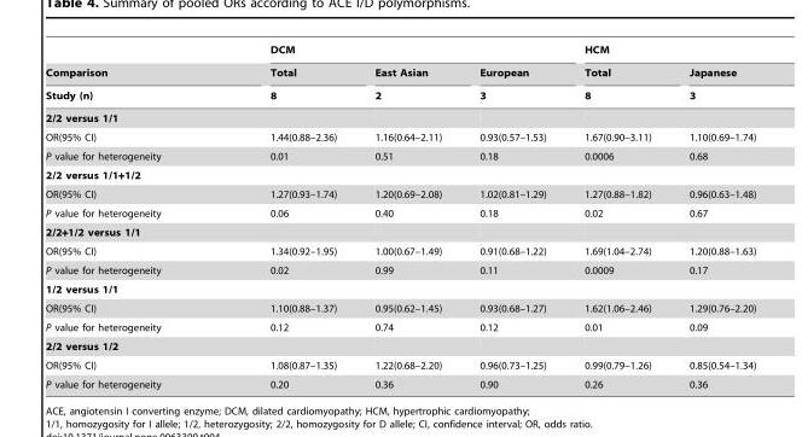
<table><thead><tr><td rowspan="3">Comparison Study (n)</td><td colspan="3">DCM</td><td colspan="2">HCM</td></tr><tr><td rowspan="2">Total 8</td><td rowspan="2">East Asian 2</td><td rowspan="2">European 3</td><td rowspan="2">Total 8</td><td rowspan="2">Japanese 3</td></tr><tr></tr></thead><tbody><tr><td colspan="6">2/2 versus 1/1</td></tr><tr><td>OR(95% CI)</td><td>1.44(0.88–2.36)</td><td>1.16(0.64–2.11)</td><td>0.93(0.57–1.53)</td><td>1.67(0.90–3.11)</td><td>1.10(0.69–1.74)</td></tr><tr><td>P value for heterogeneity</td><td>0.01</td><td>0.51</td><td>0.18</td><td>0.0006</td><td>0.68</td></tr><tr><td colspan="6">2/2 versus 1/1+1/2</td></tr><tr><td>OR(95% CI)</td><td>1.27(0.93–1.74)</td><td>1.20(0.69–2.08)</td><td>1.02(0.81–1.29)</td><td>1.27(0.88–1.82)</td><td>0.96(0.63–1.48)</td></tr><tr><td>P value for heterogeneity</td><td>0.06</td><td>0.40</td><td>0.18</td><td>0.02</td><td>0.67</td></tr><tr><td colspan="6">2/2+1/2 versus 1/1</td></tr><tr><td>OR(95% CI)</td><td>1.34(0.92–1.95)</td><td>1.00(0.67–1.49)</td><td>0.91(0.68–1.22)</td><td>1.69(1.04–2.74)</td><td>1.20(0.88–1.63)</td></tr><tr><td>P value for heterogeneity</td><td>0.02</td><td>0.99</td><td>0.11</td><td>0.0009</td><td>0.17</td></tr><tr><td colspan="6">1/2 versus 1/1</td></tr><tr><td>OR(95% CI)</td><td>1.10(0.88–1.37)</td><td>0.95(0.62–1.45)</td><td>0.93(0.68–1.27)</td><td>1.62(1.06–2.46)</td><td>1.29(0.76–2.20)</td></tr><tr><td>P value for heterogeneity</td><td>0.12</td><td>0.74</td><td>0.12</td><td>0.01</td><td>0.09</td></tr><tr><td colspan="6">2/2 versus 1/2</td></tr><tr><td>OR(95% CI)</td><td>1.08(0.87–1.35)</td><td>1.22(0.68–2.20)</td><td>0.96(0.73–1.25)</td><td>0.99(0.79–1.26)</td><td>0.85(0.54–1.34)</td></tr><tr><td>P value for heterogeneity</td><td>0.20</td><td>0.36</td><td>0.90</td><td>0.26</td><td>0.36</td></tr></tbody></table>